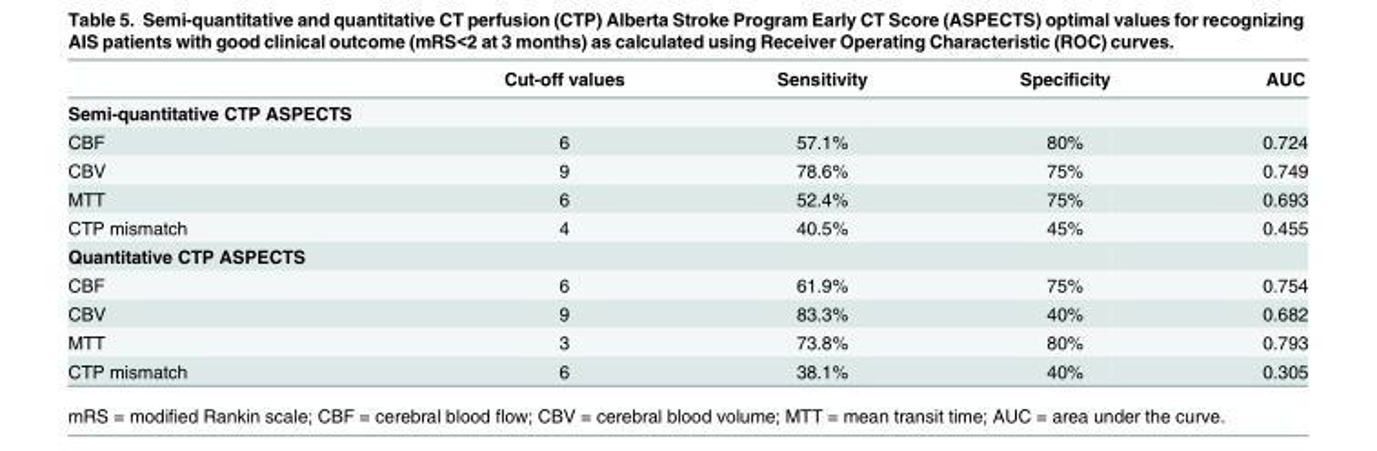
<table><thead><tr><td></td><td>Cut-off values</td><td>Sensitivity</td><td>Specificity</td><td>AUC</td></tr></thead><tbody><tr><td colspan="5">Semi-quantitative CTP ASPECTS</td></tr><tr><td>CBF</td><td>6</td><td>57.1%</td><td>80%</td><td>0.724</td></tr><tr><td>CBV</td><td>9</td><td>78.6%</td><td>75%</td><td>0.749</td></tr><tr><td>MTT</td><td>6</td><td>52.4%</td><td>75%</td><td>0.693</td></tr><tr><td>CTP mismatch</td><td>4</td><td>40.5%</td><td>45%</td><td>0.455</td></tr><tr><td colspan="5">Quantitative CTP ASPECTS</td></tr><tr><td>CBF</td><td>6</td><td>61.9%</td><td>75%</td><td>0.754</td></tr><tr><td>CBV</td><td>9</td><td>83.3%</td><td>40%</td><td>0.682</td></tr><tr><td>MTT</td><td>3</td><td>73.8%</td><td>80%</td><td>0.793</td></tr><tr><td>CTP mismatch</td><td>6</td><td>38.1%</td><td>40%</td><td>0.305</td></tr></tbody></table>